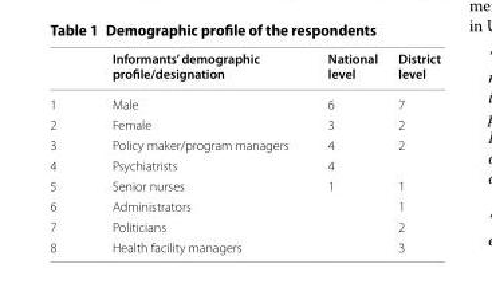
<table><thead><tr><td></td><td>Informants’ demographic profile/designation</td><td>National level</td><td>District level</td></tr></thead><tbody><tr><td>1</td><td>Male</td><td>6</td><td>7</td></tr><tr><td>2</td><td>Female</td><td>3</td><td>2</td></tr><tr><td>3</td><td>Policy maker/program managers</td><td>4</td><td>2</td></tr><tr><td>4</td><td>Psychiatrists</td><td>4</td><td></td></tr><tr><td>5</td><td>Senior nurses</td><td>1</td><td>1</td></tr><tr><td>6</td><td>Administrators</td><td></td><td>1</td></tr><tr><td>7</td><td>Politicians</td><td></td><td>2</td></tr><tr><td>8</td><td>Health facility managers</td><td></td><td>3</td></tr></tbody></table>